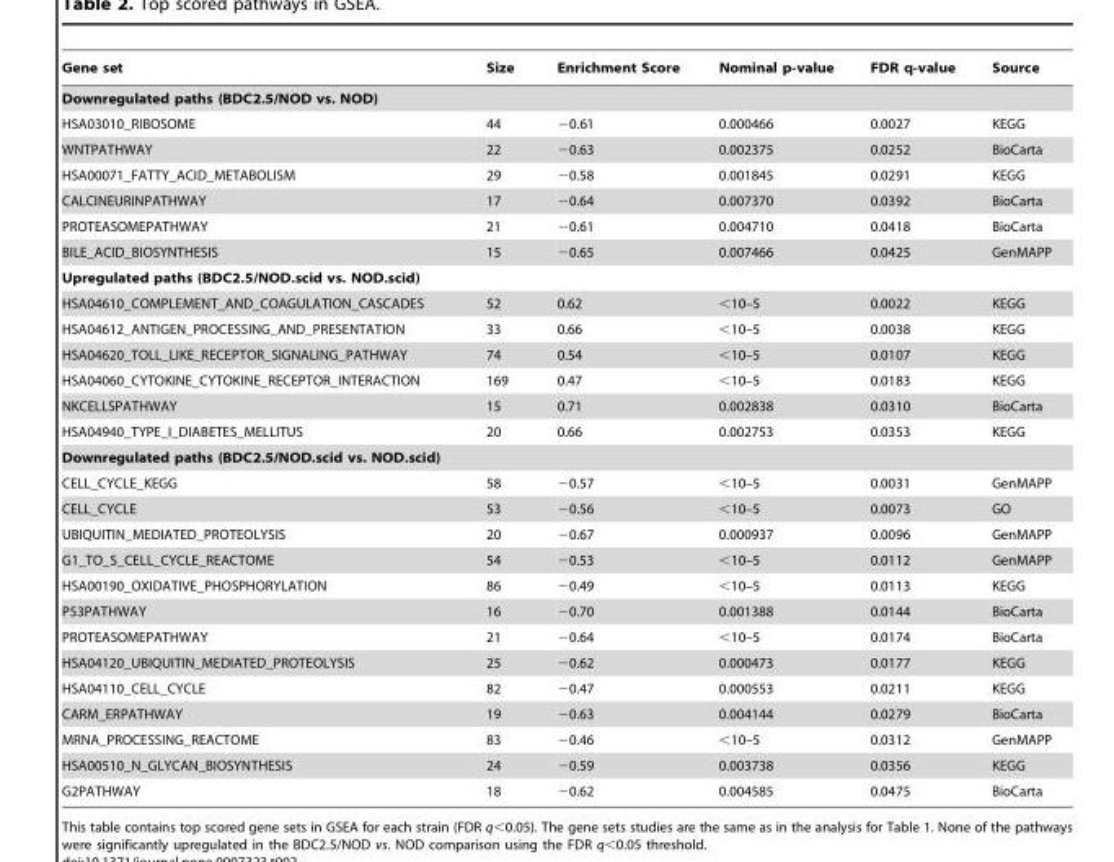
<table><thead><tr><td>Gene set</td><td>Size</td><td>Enrichment Score</td><td>Nominal p-value</td><td>FDR q-value</td><td>Source</td></tr></thead><tbody><tr><td colspan="6">Downregulated paths (BDC2.5/NOD vs. NOD)</td></tr><tr><td>HSA03010_RIBOSOME</td><td>44</td><td>−0.61</td><td>0.000466</td><td>0.0027</td><td>KEGG</td></tr><tr><td>WNTPATHWAY</td><td>22</td><td>−0.63</td><td>0.002375</td><td>0.0252</td><td>BioCarta</td></tr><tr><td>HSA00071_FATTY_ACID_METABOLISM</td><td>29</td><td>−0.58</td><td>0.001845</td><td>0.0291</td><td>KEGG</td></tr><tr><td>CALCINEURINPATHWAY</td><td>17</td><td>−0.64</td><td>0.007370</td><td>0.0392</td><td>BioCarta</td></tr><tr><td>PROTEASOMEPATHWAY</td><td>21</td><td>−0.61</td><td>0.004710</td><td>0.0418</td><td>BioCarta</td></tr><tr><td>BILE_ACID_BIOSYNTHESIS</td><td>15</td><td>−0.65</td><td>0.007466</td><td>0.0425</td><td>GenMAPP</td></tr><tr><td colspan="6">Upregulated paths (BDC2.5/NOD.scid vs. NOD.scid)</td></tr><tr><td>HSA04610_COMPLEMENT_AND_COAGULATION_CASCADES</td><td>52</td><td>0.62</td><td>&lt;10–5</td><td>0.0022</td><td>KEGG</td></tr><tr><td>HSA04612_ANTIGEN_PROCESSING_AND_PRESENTATION</td><td>33</td><td>0.66</td><td>&lt;10–5</td><td>0.0038</td><td>KEGG</td></tr><tr><td>HSA04620_TOLL_LIKE_RECEPTOR_SIGNALING_PATHWAY</td><td>74</td><td>0.54</td><td>&lt;10–5</td><td>0.0107</td><td>KEGG</td></tr><tr><td>HSA04060_CYTOKINE_CYTOKINE_RECEPTOR_INTERACTION</td><td>169</td><td>0.47</td><td>&lt;10–5</td><td>0.0183</td><td>KEGG</td></tr><tr><td>NKCELLSPATHWAY</td><td>15</td><td>0.71</td><td>0.002838</td><td>0.0310</td><td>BioCarta</td></tr><tr><td>HSA04940_TYPE_I_DIABETES_MELLITUS</td><td>20</td><td>0.66</td><td>0.002753</td><td>0.0353</td><td>KEGG</td></tr><tr><td colspan="6">Downregulated paths (BDC2.5/NOD.scid vs. NOD.scid)</td></tr><tr><td>CELL_CYCLE_KEGG</td><td>58</td><td>−0.57</td><td>&lt;10–5</td><td>0.0031</td><td>GenMAPP</td></tr><tr><td>CELL_CYCLE</td><td>53</td><td>−0.56</td><td>&lt;10–5</td><td>0.0073</td><td>GO</td></tr><tr><td>UBIQUITIN_MEDIATED_PROTEOLYSIS</td><td>20</td><td>−0.67</td><td>0.000937</td><td>0.0096</td><td>GenMAPP</td></tr><tr><td>G1_TO_S_CELL_CYCLE_REACTOME</td><td>54</td><td>−0.53</td><td>&lt;10–5</td><td>0.0112</td><td>GenMAPP</td></tr><tr><td>HSA00190_OXIDATIVE_PHOSPHORYLATION</td><td>86</td><td>−0.49</td><td>&lt;10–5</td><td>0.0113</td><td>KEGG</td></tr><tr><td>P53PATHWAY</td><td>16</td><td>−0.70</td><td>0.001388</td><td>0.0144</td><td>BioCarta</td></tr><tr><td>PROTEASOMEPATHWAY</td><td>21</td><td>−0.64</td><td>&lt;10–5</td><td>0.0174</td><td>BioCarta</td></tr><tr><td>HSA04120_UBIQUITIN_MEDIATED_PROTEOLYSIS</td><td>25</td><td>−0.62</td><td>0.000473</td><td>0.0177</td><td>KEGG</td></tr><tr><td>HSA04110_CELL_CYCLE</td><td>82</td><td>−0.47</td><td>0.000553</td><td>0.0211</td><td>KEGG</td></tr><tr><td>CARM_ERPATHWAY</td><td>19</td><td>−0.63</td><td>0.004144</td><td>0.0279</td><td>BioCarta</td></tr><tr><td>MRNA_PROCESSING_REACTOME</td><td>83</td><td>−0.46</td><td>&lt;10–5</td><td>0.0312</td><td>GenMAPP</td></tr><tr><td>HSA00510_N_GLYCAN_BIOSYNTHESIS</td><td>24</td><td>−0.59</td><td>0.003738</td><td>0.0356</td><td>KEGG</td></tr><tr><td>G2PATHWAY</td><td>18</td><td>−0.62</td><td>0.004585</td><td>0.0475</td><td>BioCarta</td></tr></tbody></table>